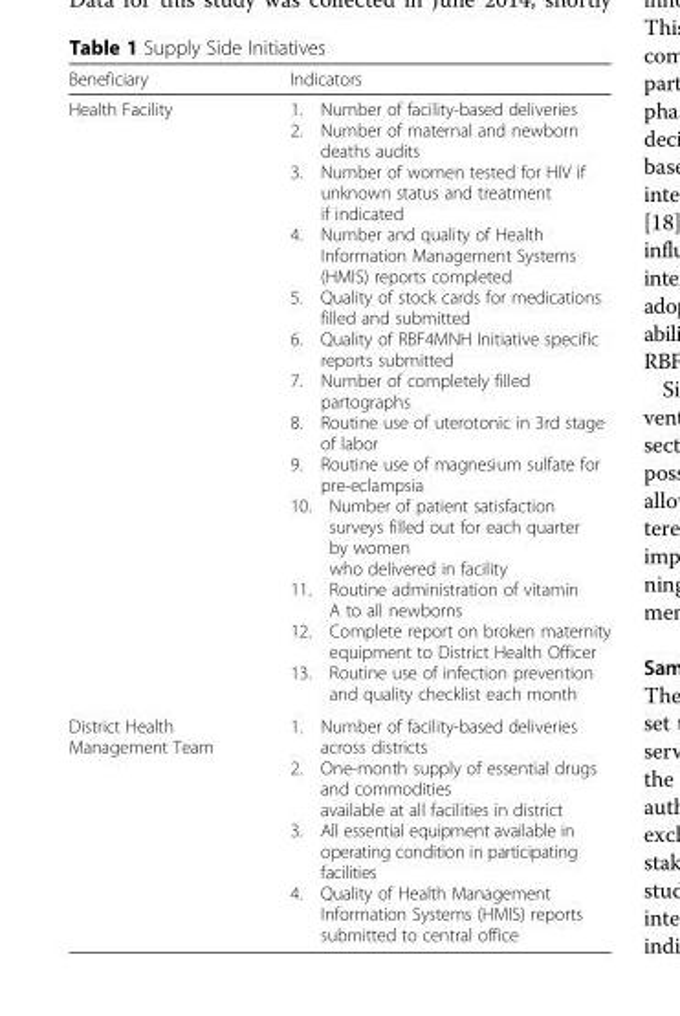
<table><thead><tr><td>Beneficiary</td><td>Indicators</td></tr></thead><tbody><tr><td>Health Facility</td><td>1. Number of facility-based deliveries 2. Number of maternal and newborn deaths audits 3. Number of women tested for HIV if unknown status and treatment if indicated 4. Number and quality of Health Information Management Systems (HMIS) reports completed 5. Quality of stock cards for medications filled and submitted 6. Quality of RBF4MNH Initiative specific reports submitted 7. Number of completely filled partographs 8. Routine use of uterotonic in 3rd stage of labor 9. Routine use of magnesium sulfate for pre-eclampsia 10. Number of patient satisfaction surveys filled out for each quarter by women who delivered in facility 11. Routine administration of vitamin A to all newborns 12. Complete report on broken maternity equipment to District Health Officer 13. Routine use of infection prevention and quality checklist each month</td></tr><tr><td>District Health Management Team</td><td>1. Number of facility-based deliveries across districts 2. One-month supply of essential drugs and commodities available at all facilities in district 3. All essential equipment available in operating condition in participating facilities 4. Quality of Health Management Information Systems (HMIS) reports submitted to central office</td></tr></tbody></table>